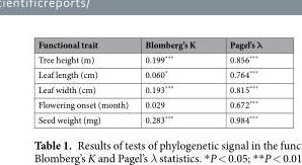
<table><thead><tr><td>Functional trait</td><td>Blomberg’s K</td><td>Pagel’s λ</td></tr></thead><tbody><tr><td>Tree height (m)</td><td>0.199***</td><td>0.856***</td></tr><tr><td>Leaf length (cm)</td><td>0.060*</td><td>0.764***</td></tr><tr><td>Leaf width (cm)</td><td>0.193***</td><td>0.815***</td></tr><tr><td>Flowering onset (month)</td><td>0.029</td><td>0.672***</td></tr><tr><td>Seed weight (mg)</td><td>0.283***</td><td>0.984***</td></tr></tbody></table>